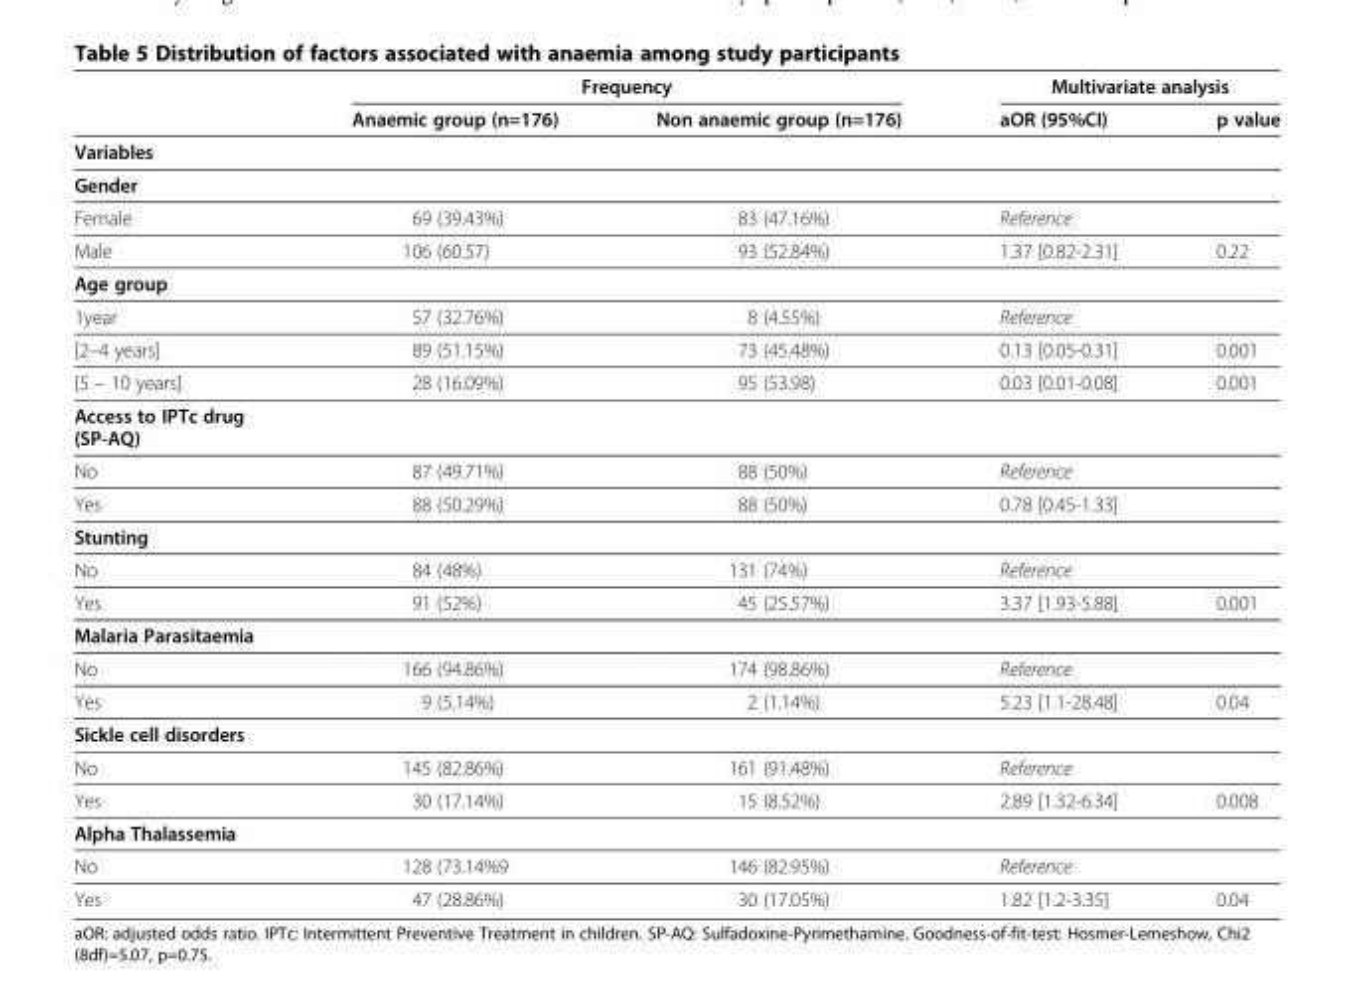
<table><thead><tr><td rowspan="2"></td><td colspan="2">Frequency</td><td colspan="2">Multivariate analysis</td></tr><tr><td>Anaemic group (n=176)</td><td>Non anaemic group (n=176)</td><td>aOR (95%CI)</td><td>p value</td></tr></thead><tbody><tr><td colspan="5">Variables</td></tr><tr><td colspan="5">Gender</td></tr><tr><td>Female</td><td>69 (39.43%)</td><td>83 (47.16%)</td><td>Reference</td><td></td></tr><tr><td>Male</td><td>106 (60.57)</td><td>93 (52.84%)</td><td>1.37 [0.82-2.31]</td><td>0.22</td></tr><tr><td colspan="5">Age group</td></tr><tr><td>1year</td><td>57 (32.76%)</td><td>8 (4.55%)</td><td>Reference</td><td></td></tr><tr><td>[2–4 years]</td><td>89 (51.15%)</td><td>73 (45.48%)</td><td>0.13 [0.05-0.31]</td><td>0.001</td></tr><tr><td>[5 – 10 years]</td><td>28 (16.09%)</td><td>95 (53.98)</td><td>0.03 [0.01-0.08]</td><td>0.001</td></tr><tr><td colspan="5">Access to IPTc drug (SP-AQ)</td></tr><tr><td>No</td><td>87 (49.71%)</td><td>88 (50%)</td><td>Reference</td><td></td></tr><tr><td>Yes</td><td>88 (50.29%)</td><td>88 (50%)</td><td>0.78 [0.45-1.33]</td><td></td></tr><tr><td colspan="5">Stunting</td></tr><tr><td>No</td><td>84 (48%)</td><td>131 (74%)</td><td>Reference</td><td></td></tr><tr><td>Yes</td><td>91 (52%)</td><td>45 (25.57%)</td><td>3.37 [1.93-5.88]</td><td>0.001</td></tr><tr><td colspan="5">Malaria Parasitaemia</td></tr><tr><td>No</td><td>166 (94.86%)</td><td>174 (98.86%)</td><td>Reference</td><td></td></tr><tr><td>Yes</td><td>9 (5.14%)</td><td>2 (1.14%)</td><td>5.23 [1.1-28.48]</td><td>0.04</td></tr><tr><td colspan="5">Sickle cell disorders</td></tr><tr><td>No</td><td>145 (82.86%)</td><td>161 (91.48%)</td><td>Reference</td><td></td></tr><tr><td>Yes</td><td>30 (17.14%)</td><td>15 (8.52%)</td><td>2.89 [1.32-6.34]</td><td>0.008</td></tr><tr><td colspan="5">Alpha Thalassemia</td></tr><tr><td>No</td><td>128 (73.14%9</td><td>146 (82.95%)</td><td>Reference</td><td></td></tr><tr><td>Yes</td><td>47 (28.86%)</td><td>30 (17.05%)</td><td>1.82 [1.2-3.35]</td><td>0.04</td></tr></tbody></table>